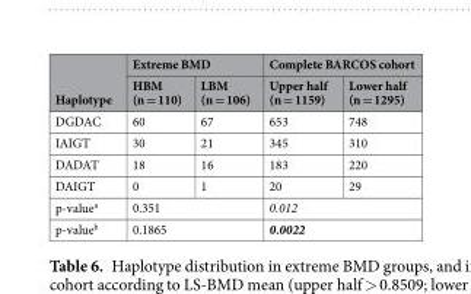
<table><thead><tr><td rowspan="2">Haplotype</td><td colspan="2">Extreme BMD</td><td colspan="2">Complete BARCOS cohort</td></tr><tr><td>HBM (n = 110)</td><td>LBM (n = 106)</td><td>Upper half (n = 1159)</td><td>Lower half (n = 1295)</td></tr></thead><tbody><tr><td>DGDAC</td><td>60</td><td>67</td><td>653</td><td>748</td></tr><tr><td>IAIGT</td><td>30</td><td>21</td><td>345</td><td>310</td></tr><tr><td>DADAT</td><td>18</td><td>16</td><td>183</td><td>220</td></tr><tr><td>DAIGT</td><td>0</td><td>1</td><td>20</td><td>29</td></tr><tr><td>p-value<sup>a</sup></td><td colspan="2">0.351</td><td colspan="2">0.012</td></tr><tr><td>p-value<sup>b</sup></td><td colspan="2">0.1865</td><td colspan="2">0.0022</td></tr></tbody></table>